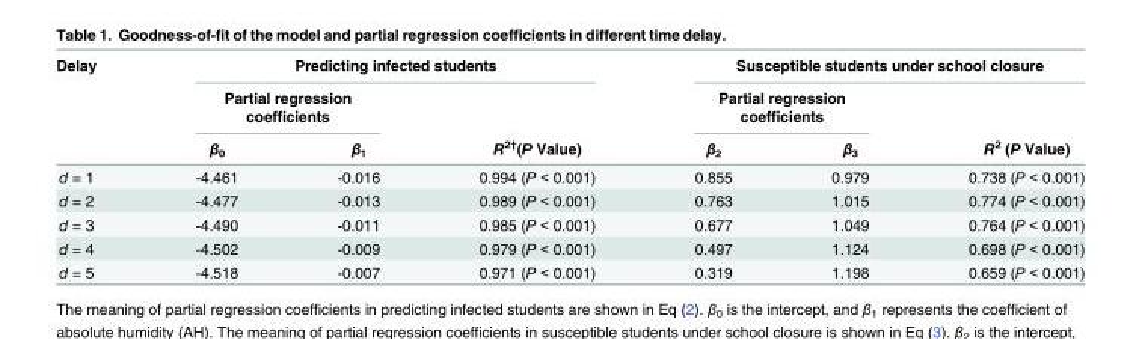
<table><thead><tr><td rowspan="3">Delay</td><td colspan="3">Predicting infected students</td><td colspan="3">Susceptible students under school closure</td></tr><tr><td colspan="2">Partial regression coefficients</td><td rowspan="2">R<sup>2†</sup>(P Value)</td><td colspan="2">Partial regression coefficients</td><td rowspan="2">R<sup>2</sup> (P Value)</td></tr><tr><td>β<sub>0</sub></td><td>β<sub>1</sub></td><td>β<sub>2</sub></td><td>β<sub>3</sub></td></tr></thead><tbody><tr><td>d = 1</td><td>-4.461</td><td>-0.016</td><td>0.994 (P &lt; 0.001)</td><td>0.855</td><td>0.979</td><td>0.738 (P &lt; 0.001)</td></tr><tr><td>d = 2</td><td>-4.477</td><td>-0.013</td><td>0.989 (P &lt; 0.001)</td><td>0.763</td><td>1.015</td><td>0.774 (P &lt; 0.001)</td></tr><tr><td>d = 3</td><td>-4.490</td><td>-0.011</td><td>0.985 (P &lt; 0.001)</td><td>0.677</td><td>1.049</td><td>0.764 (P &lt; 0.001)</td></tr><tr><td>d = 4</td><td>-4.502</td><td>-0.009</td><td>0.979 (P &lt; 0.001)</td><td>0.497</td><td>1.124</td><td>0.698 (P &lt; 0.001)</td></tr><tr><td>d = 5</td><td>-4.518</td><td>-0.007</td><td>0.971 (P &lt; 0.001)</td><td>0.319</td><td>1.198</td><td>0.659 (P &lt; 0.001)</td></tr></tbody></table>